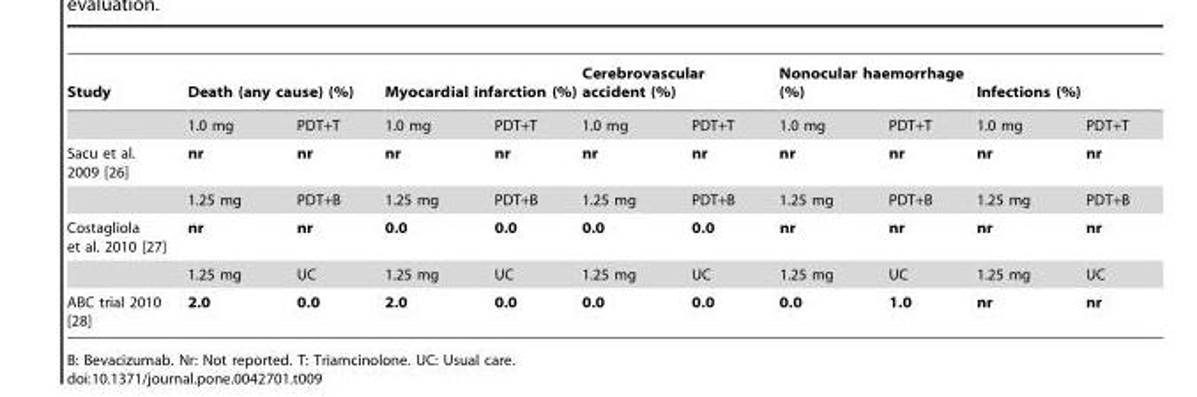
<table><thead><tr><td rowspan="2">Study</td><td colspan="2">Death (any cause) (%)</td><td colspan="2">Myocardial infarction (%)</td><td colspan="2">Cerebrovascular accident (%)</td><td colspan="2">Nonocular haemorrhage (%)</td><td colspan="2">Infections (%)</td></tr><tr><td>1.0 mg</td><td>PDT+T</td><td>1.0 mg</td><td>PDT+T</td><td>1.0 mg</td><td>PDT+T</td><td>1.0 mg</td><td>PDT+T</td><td>1.0 mg</td><td>PDT+T</td></tr></thead><tbody><tr><td rowspan="2">Sacu et al. 2009 [26]</td><td>nr</td><td>nr</td><td>nr</td><td>nr</td><td>nr</td><td>nr</td><td>nr</td><td>nr</td><td>nr</td><td>nr</td></tr><tr><td>1.25 mg</td><td>PDT+B</td><td>1.25 mg</td><td>PDT+B</td><td>1.25 mg</td><td>PDT+B</td><td>1.25 mg</td><td>PDT+B</td><td>1.25 mg</td><td>PDT+B</td></tr><tr><td rowspan="2">Costagliola et al. 2010 [27]</td><td>nr</td><td>nr</td><td>0.0</td><td>0.0</td><td>0.0</td><td>0.0</td><td>nr</td><td>nr</td><td>nr</td><td>nr</td></tr><tr><td>1.25 mg</td><td>UC</td><td>1.25 mg</td><td>UC</td><td>1.25 mg</td><td>UC</td><td>1.25 mg</td><td>UC</td><td>1.25 mg</td><td>UC</td></tr><tr><td>ABC trial 2010 [28]</td><td>2.0</td><td>0.0</td><td>2.0</td><td>0.0</td><td>0.0</td><td>0.0</td><td>0.0</td><td>1.0</td><td>nr</td><td>nr</td></tr></tbody></table>